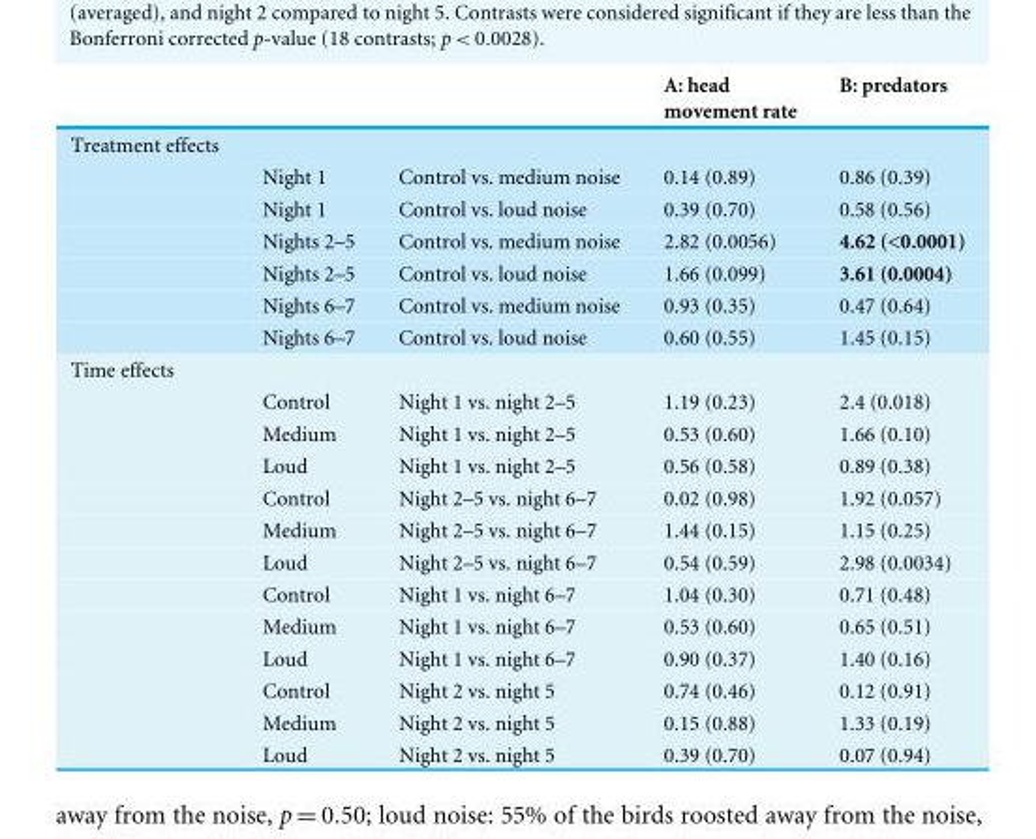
<table><thead><tr><td></td><td></td><td></td><td>A: head movement rate</td><td>B: predators</td></tr></thead><tbody><tr><td colspan="5">Treatment effects</td></tr><tr><td></td><td>Night 1</td><td>Control vs. medium noise</td><td>0.14 (0.89)</td><td>0.86 (0.39)</td></tr><tr><td></td><td>Night 1</td><td>Control vs. loud noise</td><td>0.39 (0.70)</td><td>0.58 (0.56)</td></tr><tr><td></td><td>Nights 2–5</td><td>Control vs. medium noise</td><td>2.82 (0.0056)</td><td>4.62 (&lt;0.0001)</td></tr><tr><td></td><td>Nights 2–5</td><td>Control vs. loud noise</td><td>1.66 (0.099)</td><td>3.61 (0.0004)</td></tr><tr><td></td><td>Nights 6–7</td><td>Control vs. medium noise</td><td>0.93 (0.35)</td><td>0.47 (0.64)</td></tr><tr><td></td><td>Nights 6–7</td><td>Control vs. loud noise</td><td>0.60 (0.55)</td><td>1.45 (0.15)</td></tr><tr><td colspan="5">Time effects</td></tr><tr><td></td><td>Control</td><td>Night 1 vs. night 2–5</td><td>1.19 (0.23)</td><td>2.4 (0.018)</td></tr><tr><td></td><td>Medium</td><td>Night 1 vs. night 2–5</td><td>0.53 (0.60)</td><td>1.66 (0.10)</td></tr><tr><td></td><td>Loud</td><td>Night 1 vs. night 2–5</td><td>0.56 (0.58)</td><td>0.89 (0.38)</td></tr><tr><td></td><td>Control</td><td>Night 2–5 vs. night 6–7</td><td>0.02 (0.98)</td><td>1.92 (0.057)</td></tr><tr><td></td><td>Medium</td><td>Night 2–5 vs. night 6–7</td><td>1.44 (0.15)</td><td>1.15 (0.25)</td></tr><tr><td></td><td>Loud</td><td>Night 2–5 vs. night 6–7</td><td>0.54 (0.59)</td><td>2.98 (0.0034)</td></tr><tr><td></td><td>Control</td><td>Night 1 vs. night 6–7</td><td>1.04 (0.30)</td><td>0.71 (0.48)</td></tr><tr><td></td><td>Medium</td><td>Night 1 vs. night 6–7</td><td>0.53 (0.60)</td><td>0.65 (0.51)</td></tr><tr><td></td><td>Loud</td><td>Night 1 vs. night 6–7</td><td>0.90 (0.37)</td><td>1.40 (0.16)</td></tr><tr><td></td><td>Control</td><td>Night 2 vs. night 5</td><td>0.74 (0.46)</td><td>0.12 (0.91)</td></tr><tr><td></td><td>Medium</td><td>Night 2 vs. night 5</td><td>0.15 (0.88)</td><td>1.33 (0.19)</td></tr><tr><td></td><td>Loud</td><td>Night 2 vs. night 5</td><td>0.39 (0.70)</td><td>0.07 (0.94)</td></tr></tbody></table>